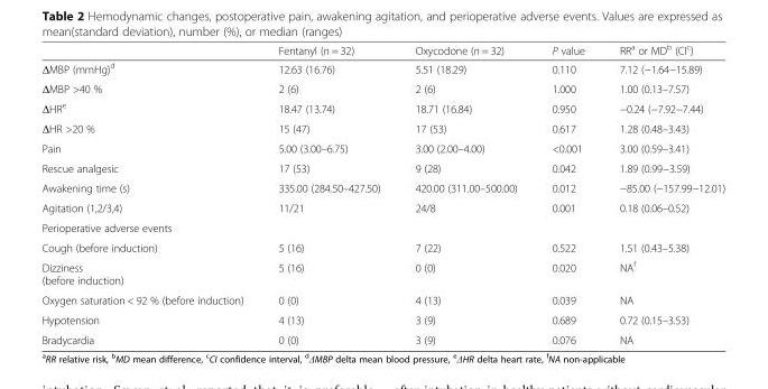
<table><thead><tr><td></td><td>Fentanyl (n = 32)</td><td>Oxycodone (n = 32)</td><td>P value</td><td>RR<sup>a</sup> or MD<sup>b</sup> (CI<sup>c</sup>)</td></tr></thead><tbody><tr><td>ΔMBP (mmHg)<sup>d</sup></td><td>12.63 (16.76)</td><td>5.51 (18.29)</td><td>0.110</td><td>7.12 (−1.64−15.89)</td></tr><tr><td>ΔMBP &gt;40 %</td><td>2 (6)</td><td>2 (6)</td><td>1.000</td><td>1.00 (0.13–7.57)</td></tr><tr><td>ΔHR<sup>e</sup></td><td>18.47 (13.74)</td><td>18.71 (16.84)</td><td>0.950</td><td>−0.24 (−7.92−7.44)</td></tr><tr><td>ΔHR &gt;20 %</td><td>15 (47)</td><td>17 (53)</td><td>0.617</td><td>1.28 (0.48–3.43)</td></tr><tr><td>Pain</td><td>5.00 (3.00–6.75)</td><td>3.00 (2.00–4.00)</td><td>&lt;0.001</td><td>3.00 (0.59–3.41)</td></tr><tr><td>Rescue analgesic</td><td>17 (53)</td><td>9 (28)</td><td>0.042</td><td>1.89 (0.99−3.59)</td></tr><tr><td>Awakening time (s)</td><td>335.00 (284.50–427.50)</td><td>420.00 (311.00–500.00)</td><td>0.012</td><td>−85.00 (−157.99−12.01)</td></tr><tr><td>Agitation (1,2/3,4)</td><td>11/21</td><td>24/8</td><td>0.001</td><td>0.18 (0.06–0.52)</td></tr><tr><td colspan="5">Perioperative adverse events</td></tr><tr><td>Cough (before induction)</td><td>5 (16)</td><td>7 (22)</td><td>0.522</td><td>1.51 (0.43–5.38)</td></tr><tr><td>Dizziness (before induction)</td><td>5 (16)</td><td>0 (0)</td><td>0.020</td><td>NA<sup>f</sup></td></tr><tr><td>Oxygen saturation &lt; 92 % (before induction)</td><td>0 (0)</td><td>4 (13)</td><td>0.039</td><td>NA</td></tr><tr><td>Hypotension</td><td>4 (13)</td><td>3 (9)</td><td>0.689</td><td>0.72 (0.15–3.53)</td></tr><tr><td>Bradycardia</td><td>0 (0)</td><td>3 (9)</td><td>0.076</td><td>NA</td></tr></tbody></table>